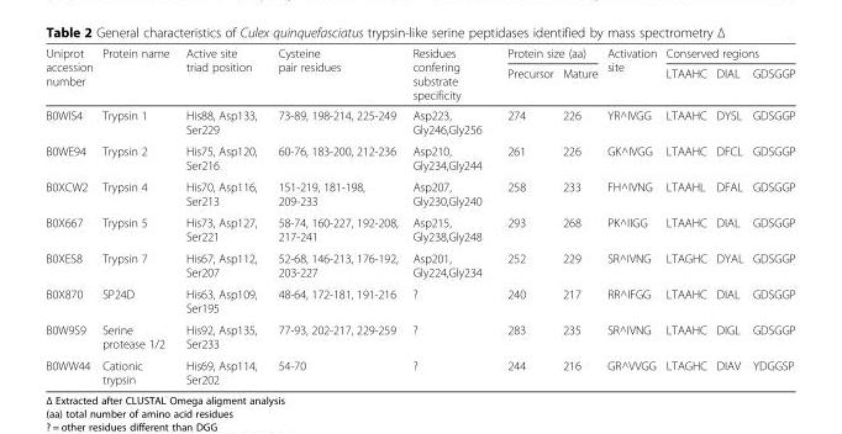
<table><thead><tr><td rowspan="2">Uniprot accession number</td><td rowspan="2">Protein name</td><td rowspan="2">Active site triad position</td><td rowspan="2">Cysteine pair residues</td><td rowspan="2">Residues confering substrate specificity</td><td colspan="2">Protein size (aa)</td><td rowspan="2">Activation site</td><td colspan="3">Conserved regions</td></tr><tr><td>Precursor</td><td>Mature</td><td>LTAAHC</td><td>DIAL</td><td>GDSGGP</td></tr></thead><tbody><tr><td>B0WIS4</td><td>Trypsin 1</td><td>His88, Asp133, Ser229</td><td>73-89, 198-214, 225-249</td><td>Asp223, Gly246,Gly256</td><td>274</td><td>226</td><td>YR^IVGG</td><td>LTAAHC</td><td>DYSL</td><td>GDSGGP</td></tr><tr><td>B0WE94</td><td>Trypsin 2</td><td>His75, Asp120, Ser216</td><td>60-76, 183-200, 212-236</td><td>Asp210, Gly234,Gly244</td><td>261</td><td>226</td><td>GK^IVGG</td><td>LTAAHC</td><td>DFCL</td><td>GDSGGP</td></tr><tr><td>B0XCW2</td><td>Trypsin 4</td><td>His70, Asp116, Ser213</td><td>151-219, 181-198, 209-233</td><td>Asp207, Gly230,Gly240</td><td>258</td><td>233</td><td>FH^IVNG</td><td>LTAAHL</td><td>DFAL</td><td>GDSGGP</td></tr><tr><td>B0X667</td><td>Trypsin 5</td><td>His73, Asp127, Ser221</td><td>58-74, 160-227, 192-208, 217-241</td><td>Asp215, Gly238,Gly248</td><td>293</td><td>268</td><td>PK^IIGG</td><td>LTAAHC</td><td>DIAL</td><td>GDSGGP</td></tr><tr><td>B0XES8</td><td>Trypsin 7</td><td>His67, Asp112, Ser207</td><td>52-68, 146-213, 176-192, 203-227</td><td>Asp201, Gly224,Gly234</td><td>252</td><td>229</td><td>SR^IVNG</td><td>LTAGHC</td><td>DYAL</td><td>GDSGGP</td></tr><tr><td>B0X870</td><td>SP24D</td><td>His63, Asp109, Ser195</td><td>48-64, 172-181, 191-216</td><td>?</td><td>240</td><td>217</td><td>RR^IFGG</td><td>LTAAHC</td><td>DIAL</td><td>GDSGGP</td></tr><tr><td>B0W9S9</td><td>Serine protease 1/2</td><td>His92, Asp135, Ser233</td><td>77-93, 202-217, 229-259</td><td>?</td><td>283</td><td>235</td><td>SR^IVNG</td><td>LTAAHC</td><td>DIGL</td><td>GDSGGP</td></tr><tr><td>B0WW44</td><td>Cationic trypsin</td><td>His69, Asp114, Ser202</td><td>54-70</td><td>?</td><td>244</td><td>216</td><td>GR^VVGG</td><td>LTAGHC</td><td>DIAV</td><td>YDGGSP</td></tr></tbody></table>